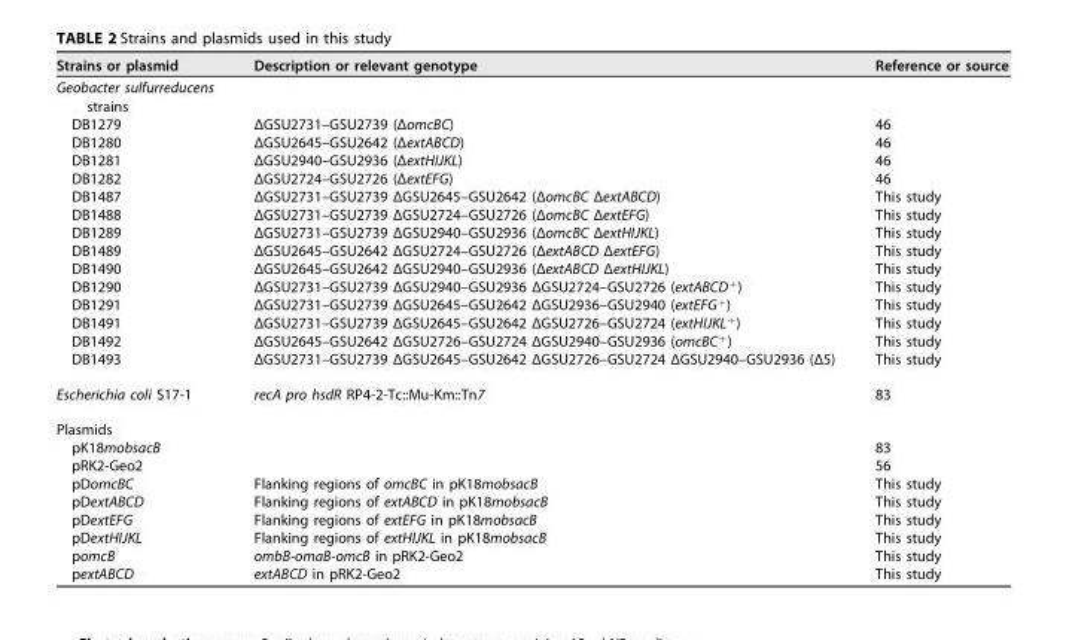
<table><thead><tr><td>Strains or plasmid</td><td>Description or relevant genotype</td><td>Reference or source</td></tr></thead><tbody><tr><td colspan="3">Geobacter sulfurreducens strains</td></tr><tr><td>DB1279</td><td>ΔGSU2731–GSU2739 (ΔomcBC)</td><td>46</td></tr><tr><td>DB1280</td><td>ΔGSU2645–GSU2642 (ΔextABCD)</td><td>46</td></tr><tr><td>DB1281</td><td>ΔGSU2940–GSU2936 (ΔextHIJKL)</td><td>46</td></tr><tr><td>DB1282</td><td>ΔGSU2724–GSU2726 (ΔextEFG)</td><td>46</td></tr><tr><td>DB1487</td><td>ΔGSU2731–GSU2739 ΔGSU2645–GSU2642 (ΔomcBC ΔextABCD)</td><td>This study</td></tr><tr><td>DB1488</td><td>ΔGSU2731–GSU2739 ΔGSU2724–GSU2726 (ΔomcBC ΔextEFG)</td><td>This study</td></tr><tr><td>DB1289</td><td>ΔGSU2731–GSU2739 ΔGSU2940–GSU2936 (ΔomcBC ΔextHIJKL)</td><td>This study</td></tr><tr><td>DB1489</td><td>ΔGSU2645–GSU2642 ΔGSU2724–GSU2726 (ΔextABCD ΔextEFG)</td><td>This study</td></tr><tr><td>DB1490</td><td>ΔGSU2645–GSU2642 ΔGSU2940–GSU2936 (ΔextABCD ΔextHIJKL)</td><td>This study</td></tr><tr><td>DB1290</td><td>ΔGSU2731–GSU2739 ΔGSU2940–GSU2936 ΔGSU2724–GSU2726 (extABCD<sup>+</sup>)</td><td>This study</td></tr><tr><td>DB1291</td><td>ΔGSU2731–GSU2739 ΔGSU2645–GSU2642 ΔGSU2936–GSU2940 (extEFG<sup>+</sup>)</td><td>This study</td></tr><tr><td>DB1491</td><td>ΔGSU2731–GSU2739 ΔGSU2645–GSU2642 ΔGSU2726–GSU2724 (extHIJKL<sup>+</sup>)</td><td>This study</td></tr><tr><td>DB1492</td><td>ΔGSU2645–GSU2642 ΔGSU2726–GSU2724 ΔGSU2940–GSU2936 (omcBC<sup>+</sup>)</td><td>This study</td></tr><tr><td>DB1493</td><td>ΔGSU2731–GSU2739 ΔGSU2645–GSU2642 ΔGSU2726–GSU2724 ΔGSU2940–GSU2936 (Δ5)</td><td>This study</td></tr><tr><td>Escherichia coli S17-1</td><td>recA pro hsdR RP4-2-Tc::Mu-Km::Tn7</td><td>83</td></tr><tr><td colspan="3">Plasmids</td></tr><tr><td>pK18mobsacB</td><td></td><td>83</td></tr><tr><td>pRK2-Geo2</td><td></td><td>56</td></tr><tr><td>pDomcBC</td><td>Flanking regions of omcBC in pK18mobsacB</td><td>This study</td></tr><tr><td>pDextABCD</td><td>Flanking regions of extABCD in pK18mobsacB</td><td>This study</td></tr><tr><td>pDextEFG</td><td>Flanking regions of extEFG in pK18mobsacB</td><td>This study</td></tr><tr><td>pDextHIJKL</td><td>Flanking regions of extHIJKL in pK18mobsacB</td><td>This study</td></tr><tr><td>pomcB</td><td>ombB-omaB-omcB in pRK2-Geo2</td><td>This study</td></tr><tr><td>pextABCD</td><td>extABCD in pRK2-Geo2</td><td>This study</td></tr></tbody></table>